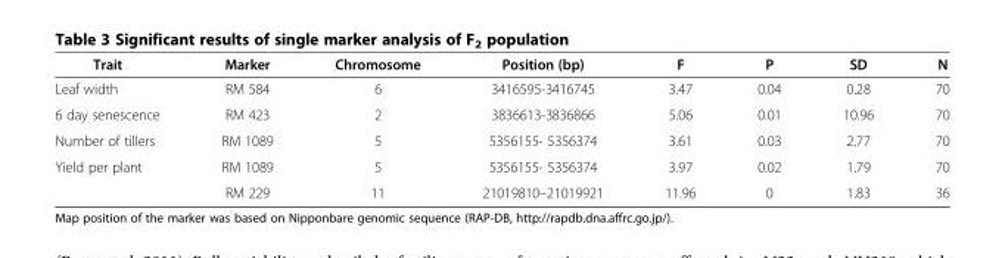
<table><thead><tr><td>Trait</td><td>Marker</td><td>Chromosome</td><td>Position (bp)</td><td>F</td><td>P</td><td>SD</td><td>N</td></tr></thead><tbody><tr><td>Leaf width</td><td>RM 584</td><td>6</td><td>3416595-3416745</td><td>3.47</td><td>0.04</td><td>0.28</td><td>70</td></tr><tr><td>6 day senescence</td><td>RM 423</td><td>2</td><td>3836613-3836866</td><td>5.06</td><td>0.01</td><td>10.96</td><td>70</td></tr><tr><td>Number of tillers</td><td>RM 1089</td><td>5</td><td>5356155- 5356374</td><td>3.61</td><td>0.03</td><td>2.77</td><td>70</td></tr><tr><td rowspan="2">Yield per plant</td><td>RM 1089</td><td>5</td><td>5356155- 5356374</td><td>3.97</td><td>0.02</td><td>1.79</td><td>70</td></tr><tr><td>RM 229</td><td>11</td><td>21019810–21019921</td><td>11.96</td><td>0</td><td>1.83</td><td>36</td></tr></tbody></table>